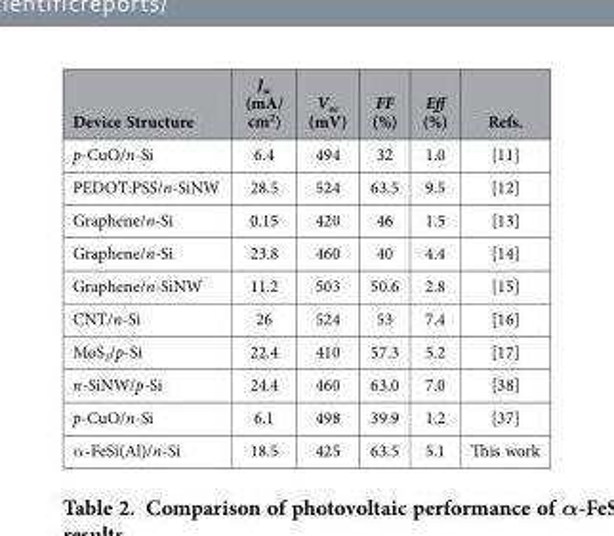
<table><thead><tr><td>Device Structure</td><td>J<sub>sc</sub> (mA/ cm<sup>2</sup>)</td><td>V<sub>oc</sub> (mV)</td><td>FF (%)</td><td>Eff (%)</td><td>Refs.</td></tr></thead><tbody><tr><td>p-CuO/n-Si</td><td>6.4</td><td>494</td><td>32</td><td>1.0</td><td>[11]</td></tr><tr><td>PEDOT:PSS/n-SiNW</td><td>28.5</td><td>524</td><td>63.5</td><td>9.5</td><td>[12]</td></tr><tr><td>Graphene/n-Si</td><td>0.15</td><td>420</td><td>46</td><td>1.5</td><td>[13]</td></tr><tr><td>Graphene/n-Si</td><td>23.8</td><td>460</td><td>40</td><td>4.4</td><td>[14]</td></tr><tr><td>Graphene/n-SiNW</td><td>11.2</td><td>503</td><td>50.6</td><td>2.8</td><td>[15]</td></tr><tr><td>CNT/n-Si</td><td>26</td><td>524</td><td>53</td><td>7.4</td><td>[16]</td></tr><tr><td>MoS<sub>2</sub>/p-Si</td><td>22.4</td><td>410</td><td>57.3</td><td>5.2</td><td>[17]</td></tr><tr><td>n-SiNW/p-Si</td><td>24.4</td><td>460</td><td>63.0</td><td>7.0</td><td>[38]</td></tr><tr><td>p-CuO/n-Si</td><td>6.1</td><td>498</td><td>39.9</td><td>1.2</td><td>[37]</td></tr><tr><td>α -FeSi(Al)/n-Si</td><td>18.5</td><td>425</td><td>63.5</td><td>5.1</td><td>This work</td></tr></tbody></table>